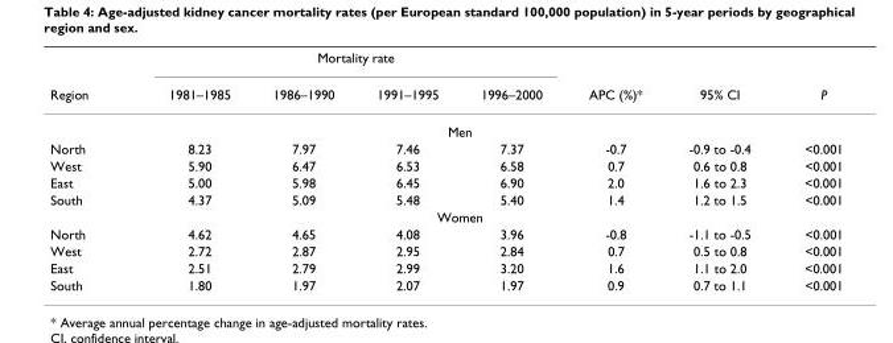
<table><thead><tr><td rowspan="2">Region</td><td colspan="4">Mortality rate</td><td rowspan="2">APC (%)*</td><td rowspan="2">95% CI</td><td rowspan="2">P</td></tr><tr><td>1981–1985</td><td>1986–1990</td><td>1991–1995</td><td>1996–2000</td></tr></thead><tbody><tr><td colspan="8">Men</td></tr><tr><td>North</td><td>8.23</td><td>7.97</td><td>7.46</td><td>7.37</td><td>-0.7</td><td>-0.9 to -0.4</td><td>&lt;0.001</td></tr><tr><td>West</td><td>5.90</td><td>6.47</td><td>6.53</td><td>6.58</td><td>0.7</td><td>0.6 to 0.8</td><td>&lt;0.001</td></tr><tr><td>East</td><td>5.00</td><td>5.98</td><td>6.45</td><td>6.90</td><td>2.0</td><td>1.6 to 2.3</td><td>&lt;0.001</td></tr><tr><td>South</td><td>4.37</td><td>5.09</td><td>5.48</td><td>5.40</td><td>1.4</td><td>1.2 to 1.5</td><td>&lt;0.001</td></tr><tr><td colspan="8">Women</td></tr><tr><td>North</td><td>4.62</td><td>4.65</td><td>4.08</td><td>3.96</td><td>-0.8</td><td>-1.1 to -0.5</td><td>&lt;0.001</td></tr><tr><td>West</td><td>2.72</td><td>2.87</td><td>2.95</td><td>2.84</td><td>0.7</td><td>0.5 to 0.8</td><td>&lt;0.001</td></tr><tr><td>East</td><td>2.51</td><td>2.79</td><td>2.99</td><td>3.20</td><td>1.6</td><td>1.1 to 2.0</td><td>&lt;0.001</td></tr><tr><td>South</td><td>1.80</td><td>1.97</td><td>2.07</td><td>1.97</td><td>0.9</td><td>0.7 to 1.1</td><td>&lt;0.001</td></tr></tbody></table>